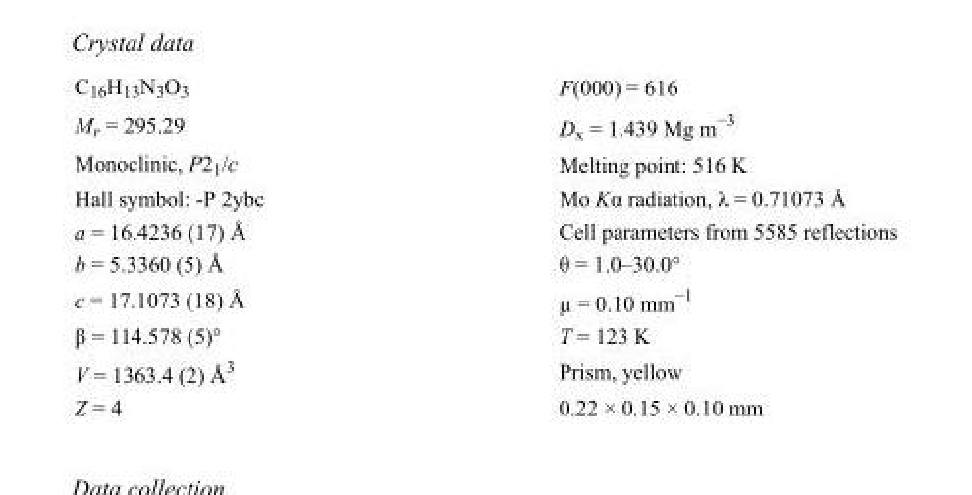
<table><tbody><tr><td>C<sub>16</sub>H<sub>13</sub>N<sub>3</sub>O<sub>3</sub></td><td>F(000) = 616</td></tr><tr><td>M<sub>r</sub> = 295.29</td><td>D<sub>x</sub> = 1.439 Mg m<sup>−3</sup></td></tr><tr><td>Monoclinic, P2<sub>1</sub>/c</td><td>Melting point: 516 K</td></tr><tr><td>Hall symbol: -P 2ybc</td><td>Mo Kα radiation, λ = 0.71073 Å</td></tr><tr><td>a = 16.4236 (17) Å</td><td>Cell parameters from 5585 reflections</td></tr><tr><td>b = 5.3360 (5) Å</td><td>θ = 1.0–30.0°</td></tr><tr><td>c = 17.1073 (18) Å</td><td>µ = 0.10 mm<sup>−1</sup></td></tr><tr><td>β = 114.578 (5)°</td><td>T = 123 K</td></tr><tr><td>V = 1363.4 (2) Å<sup>3</sup></td><td>Prism, yellow</td></tr><tr><td>Z = 4</td><td>0.22 × 0.15 × 0.10 mm</td></tr></tbody></table>